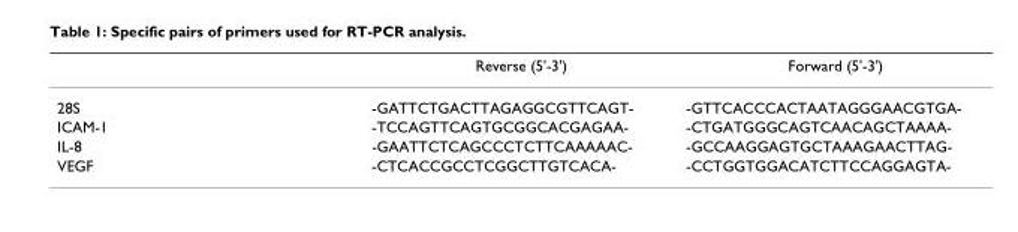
<table><thead><tr><td></td><td>Reverse (5&#x27;-3&#x27;)</td><td>Forward (5&#x27;-3&#x27;)</td></tr></thead><tbody><tr><td>28S</td><td>-GATTCTGACTTAGAGGCGTTCAGT-</td><td>-GTTCACCCACTAATAGGGAACGTGA-</td></tr><tr><td>ICAM-1</td><td>-TCCAGTTCAGTGCGGCACGAGAA-</td><td>-CTGATGGGCAGTCAACAGCTAAAA-</td></tr><tr><td>IL-8</td><td>-GAATTCTCAGCCCTCTTCAAAAAC-</td><td>-GCCAAGGAGTGCTAAAGAACTTAG-</td></tr><tr><td>VEGF</td><td>-CTCACCGCCTCGGCTTGTCACA-</td><td>-CCTGGTGGACATCTTCCAGGAGTA-</td></tr></tbody></table>